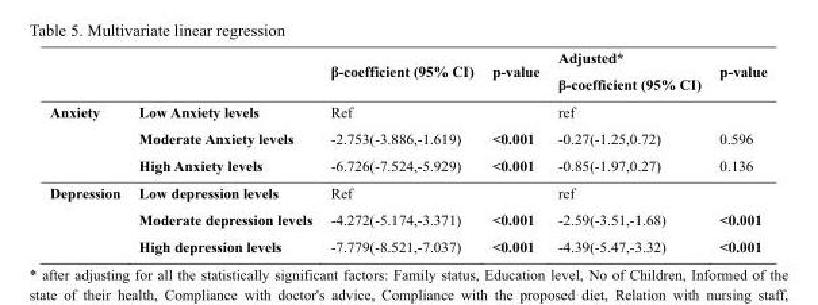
<table><thead><tr><td></td><td></td><td>β-coefficient (95% CI)</td><td>p-value</td><td>Adjusted* β-coefficient (95% CI)</td><td>p-value</td></tr></thead><tbody><tr><td rowspan="3">Anxiety</td><td>Low Anxiety levels</td><td>Ref</td><td></td><td>ref</td><td></td></tr><tr><td>Moderate Anxiety levels</td><td>-2.753(-3.886,-1.619)</td><td>&lt;0.001</td><td>-0.27(-1.25,0.72)</td><td>0.596</td></tr><tr><td>High Anxiety levels</td><td>-6.726(-7.524,-5.929)</td><td>&lt;0.001</td><td>-0.85(-1.97,0.27)</td><td>0.136</td></tr><tr><td rowspan="3">Depression</td><td>Low depression levels</td><td>Ref</td><td></td><td>ref</td><td></td></tr><tr><td>Moderate depression levels</td><td>-4.272(-5.174,-3.371)</td><td>&lt;0.001</td><td>-2.59(-3.51,-1.68)</td><td>&lt;0.001</td></tr><tr><td>High depression levels</td><td>-7.779(-8.521,-7.037)</td><td>&lt;0.001</td><td>-4.39(-5.47,-3.32)</td><td>&lt;0.001</td></tr></tbody></table>